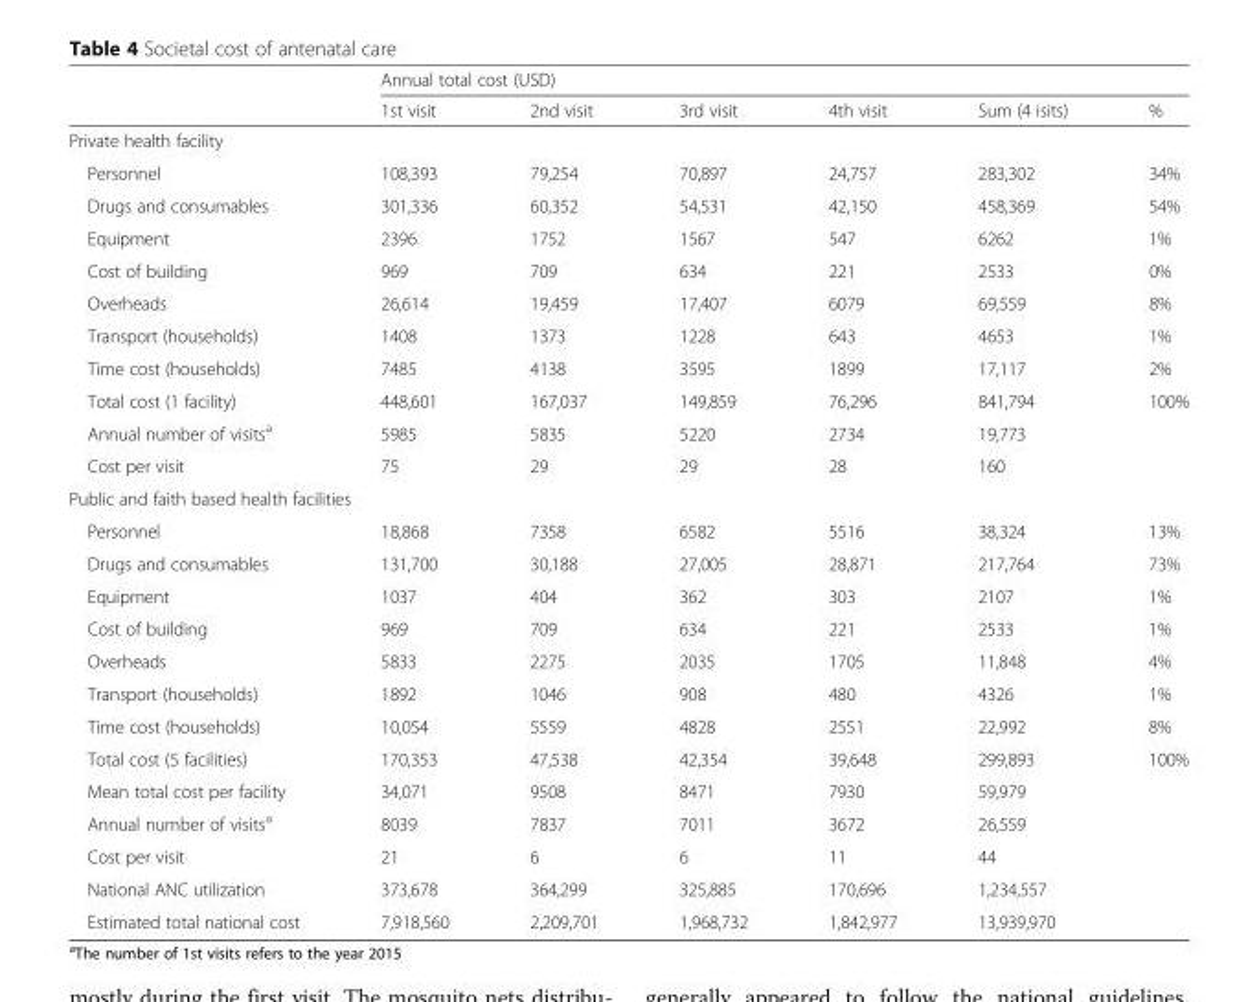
<table><thead><tr><td rowspan="2"></td><td colspan="6">Annual total cost (USD)</td></tr><tr><td>1st visit</td><td>2nd visit</td><td>3rd visit</td><td>4th visit</td><td>Sum (4 isits)</td><td>%</td></tr></thead><tbody><tr><td colspan="7">Private health facility</td></tr><tr><td>Personnel</td><td>108,393</td><td>79,254</td><td>70,897</td><td>24,757</td><td>283,302</td><td>34%</td></tr><tr><td>Drugs and consumables</td><td>301,336</td><td>60,352</td><td>54,531</td><td>42,150</td><td>458,369</td><td>54%</td></tr><tr><td>Equipment</td><td>2396</td><td>1752</td><td>1567</td><td>547</td><td>6262</td><td>1%</td></tr><tr><td>Cost of building</td><td>969</td><td>709</td><td>634</td><td>221</td><td>2533</td><td>0%</td></tr><tr><td>Overheads</td><td>26,614</td><td>19,459</td><td>17,407</td><td>6079</td><td>69,559</td><td>8%</td></tr><tr><td>Transport (households)</td><td>1408</td><td>1373</td><td>1228</td><td>643</td><td>4653</td><td>1%</td></tr><tr><td>Time cost (households)</td><td>7485</td><td>4138</td><td>3595</td><td>1899</td><td>17,117</td><td>2%</td></tr><tr><td>Total cost (1 facility)</td><td>448,601</td><td>167,037</td><td>149,859</td><td>76,296</td><td>841,794</td><td>100%</td></tr><tr><td>Annual number of visits<sup>a</sup></td><td>5985</td><td>5835</td><td>5220</td><td>2734</td><td>19,773</td><td rowspan="2"></td></tr><tr><td>Cost per visit</td><td>75</td><td>29</td><td>29</td><td>28</td><td>160</td></tr><tr><td colspan="7">Public and faith based health facilities</td></tr><tr><td>Personnel</td><td>18,868</td><td>7358</td><td>6582</td><td>5516</td><td>38,324</td><td>13%</td></tr><tr><td>Drugs and consumables</td><td>131,700</td><td>30,188</td><td>27,005</td><td>28,871</td><td>217,764</td><td>73%</td></tr><tr><td>Equipment</td><td>1037</td><td>404</td><td>362</td><td>303</td><td>2107</td><td>1%</td></tr><tr><td>Cost of building</td><td>969</td><td>709</td><td>634</td><td>221</td><td>2533</td><td>1%</td></tr><tr><td>Overheads</td><td>5833</td><td>2275</td><td>2035</td><td>1705</td><td>11,848</td><td>4%</td></tr><tr><td>Transport (households)</td><td>1892</td><td>1046</td><td>908</td><td>480</td><td>4326</td><td>1%</td></tr><tr><td>Time cost (households)</td><td>10,054</td><td>5559</td><td>4828</td><td>2551</td><td>22,992</td><td>8%</td></tr><tr><td>Total cost (5 facilities)</td><td>170,353</td><td>47,538</td><td>42,354</td><td>39,648</td><td>299,893</td><td>100%</td></tr><tr><td>Mean total cost per facility</td><td>34,071</td><td>9508</td><td>8471</td><td>7930</td><td>59,979</td><td rowspan="5"></td></tr><tr><td>Annual number of visits<sup>a</sup></td><td>8039</td><td>7837</td><td>7011</td><td>3672</td><td>26,559</td></tr><tr><td>Cost per visit</td><td>21</td><td>6</td><td>6</td><td>11</td><td>44</td></tr><tr><td>National ANC utilization</td><td>373,678</td><td>364,299</td><td>325,885</td><td>170,696</td><td>1,234,557</td></tr><tr><td>Estimated total national cost</td><td>7,918,560</td><td>2,209,701</td><td>1,968,732</td><td>1,842,977</td><td>13,939,970</td></tr></tbody></table>